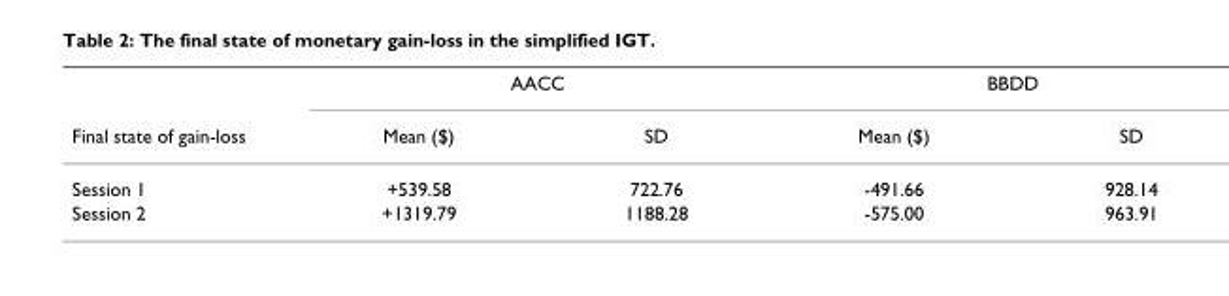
<table><thead><tr><td rowspan="2">Final state of gain-loss</td><td colspan="2">AACC</td><td colspan="2">BBDD</td></tr><tr><td>Mean ($)</td><td>SD</td><td>Mean ($)</td><td>SD</td></tr></thead><tbody><tr><td>Session 1</td><td>+539.58</td><td>722.76</td><td>-491.66</td><td>928.14</td></tr><tr><td>Session 2</td><td>+1319.79</td><td>1188.28</td><td>-575.00</td><td>963.91</td></tr></tbody></table>